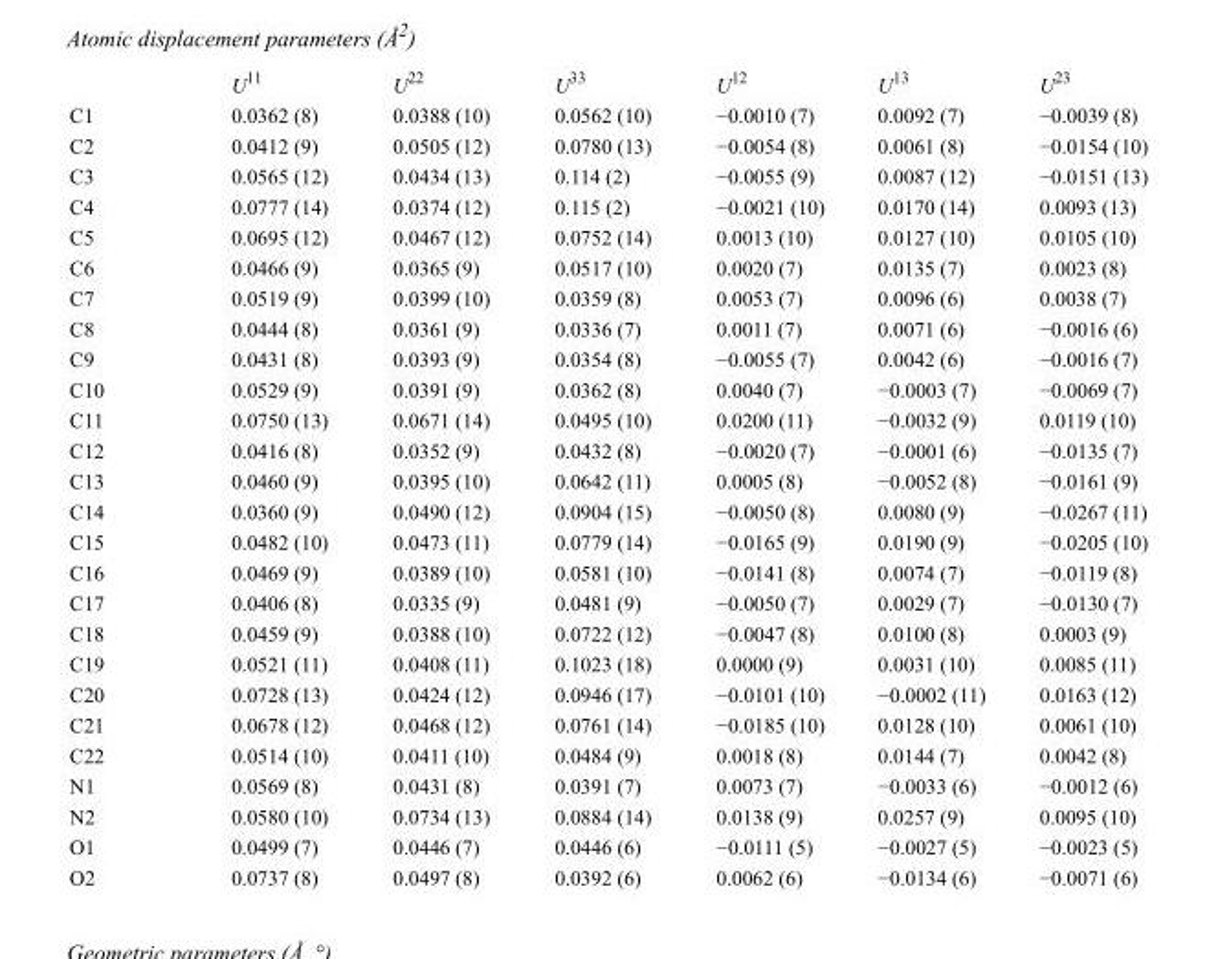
<table><thead><tr><td></td><td>U<sup>11</sup></td><td>U<sup>22</sup></td><td>U<sup>33</sup></td><td>U<sup>12</sup></td><td>U<sup>13</sup></td><td>U<sup>23</sup></td></tr></thead><tbody><tr><td>C1</td><td>0.0362 (8)</td><td>0.0388 (10)</td><td>0.0562 (10)</td><td>−0.0010 (7)</td><td>0.0092 (7)</td><td>−0.0039 (8)</td></tr><tr><td>C2</td><td>0.0412 (9)</td><td>0.0505 (12)</td><td>0.0780 (13)</td><td>−0.0054 (8)</td><td>0.0061 (8)</td><td>−0.0154 (10)</td></tr><tr><td>C3</td><td>0.0565 (12)</td><td>0.0434 (13)</td><td>0.114 (2)</td><td>−0.0055 (9)</td><td>0.0087 (12)</td><td>−0.0151 (13)</td></tr><tr><td>C4</td><td>0.0777 (14)</td><td>0.0374 (12)</td><td>0.115 (2)</td><td>−0.0021 (10)</td><td>0.0170 (14)</td><td>0.0093 (13)</td></tr><tr><td>C5</td><td>0.0695 (12)</td><td>0.0467 (12)</td><td>0.0752 (14)</td><td>0.0013 (10)</td><td>0.0127 (10)</td><td>0.0105 (10)</td></tr><tr><td>C6</td><td>0.0466 (9)</td><td>0.0365 (9)</td><td>0.0517 (10)</td><td>0.0020 (7)</td><td>0.0135 (7)</td><td>0.0023 (8)</td></tr><tr><td>C7</td><td>0.0519 (9)</td><td>0.0399 (10)</td><td>0.0359 (8)</td><td>0.0053 (7)</td><td>0.0096 (6)</td><td>0.0038 (7)</td></tr><tr><td>C8</td><td>0.0444 (8)</td><td>0.0361 (9)</td><td>0.0336 (7)</td><td>0.0011 (7)</td><td>0.0071 (6)</td><td>−0.0016 (6)</td></tr><tr><td>C9</td><td>0.0431 (8)</td><td>0.0393 (9)</td><td>0.0354 (8)</td><td>−0.0055 (7)</td><td>0.0042 (6)</td><td>−0.0016 (7)</td></tr><tr><td>C10</td><td>0.0529 (9)</td><td>0.0391 (9)</td><td>0.0362 (8)</td><td>0.0040 (7)</td><td>−0.0003 (7)</td><td>−0.0069 (7)</td></tr><tr><td>C11</td><td>0.0750 (13)</td><td>0.0671 (14)</td><td>0.0495 (10)</td><td>0.0200 (11)</td><td>−0.0032 (9)</td><td>0.0119 (10)</td></tr><tr><td>C12</td><td>0.0416 (8)</td><td>0.0352 (9)</td><td>0.0432 (8)</td><td>−0.0020 (7)</td><td>−0.0001 (6)</td><td>−0.0135 (7)</td></tr><tr><td>C13</td><td>0.0460 (9)</td><td>0.0395 (10)</td><td>0.0642 (11)</td><td>0.0005 (8)</td><td>−0.0052 (8)</td><td>−0.0161 (9)</td></tr><tr><td>C14</td><td>0.0360 (9)</td><td>0.0490 (12)</td><td>0.0904 (15)</td><td>−0.0050 (8)</td><td>0.0080 (9)</td><td>−0.0267 (11)</td></tr><tr><td>C15</td><td>0.0482 (10)</td><td>0.0473 (11)</td><td>0.0779 (14)</td><td>−0.0165 (9)</td><td>0.0190 (9)</td><td>−0.0205 (10)</td></tr><tr><td>C16</td><td>0.0469 (9)</td><td>0.0389 (10)</td><td>0.0581 (10)</td><td>−0.0141 (8)</td><td>0.0074 (7)</td><td>−0.0119 (8)</td></tr><tr><td>C17</td><td>0.0406 (8)</td><td>0.0335 (9)</td><td>0.0481 (9)</td><td>−0.0050 (7)</td><td>0.0029 (7)</td><td>−0.0130 (7)</td></tr><tr><td>C18</td><td>0.0459 (9)</td><td>0.0388 (10)</td><td>0.0722 (12)</td><td>−0.0047 (8)</td><td>0.0100 (8)</td><td>0.0003 (9)</td></tr><tr><td>C19</td><td>0.0521 (11)</td><td>0.0408 (11)</td><td>0.1023 (18)</td><td>0.0000 (9)</td><td>0.0031 (10)</td><td>0.0085 (11)</td></tr><tr><td>C20</td><td>0.0728 (13)</td><td>0.0424 (12)</td><td>0.0946 (17)</td><td>−0.0101 (10)</td><td>−0.0002 (11)</td><td>0.0163 (12)</td></tr><tr><td>C21</td><td>0.0678 (12)</td><td>0.0468 (12)</td><td>0.0761 (14)</td><td>−0.0185 (10)</td><td>0.0128 (10)</td><td>0.0061 (10)</td></tr><tr><td>C22</td><td>0.0514 (10)</td><td>0.0411 (10)</td><td>0.0484 (9)</td><td>0.0018 (8)</td><td>0.0144 (7)</td><td>0.0042 (8)</td></tr><tr><td>N1</td><td>0.0569 (8)</td><td>0.0431 (8)</td><td>0.0391 (7)</td><td>0.0073 (7)</td><td>−0.0033 (6)</td><td>−0.0012 (6)</td></tr><tr><td>N2</td><td>0.0580 (10)</td><td>0.0734 (13)</td><td>0.0884 (14)</td><td>0.0138 (9)</td><td>0.0257 (9)</td><td>0.0095 (10)</td></tr><tr><td>O1</td><td>0.0499 (7)</td><td>0.0446 (7)</td><td>0.0446 (6)</td><td>−0.0111 (5)</td><td>−0.0027 (5)</td><td>−0.0023 (5)</td></tr><tr><td>O2</td><td>0.0737 (8)</td><td>0.0497 (8)</td><td>0.0392 (6)</td><td>0.0062 (6)</td><td>−0.0134 (6)</td><td>−0.0071 (6)</td></tr></tbody></table>